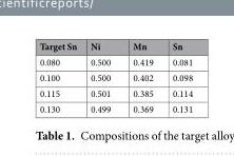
<table><thead><tr><td>Target Sn</td><td>Ni</td><td>Mn</td><td>Sn</td></tr></thead><tbody><tr><td>0.080</td><td>0.500</td><td>0.419</td><td>0.081</td></tr><tr><td>0.100</td><td>0.500</td><td>0.402</td><td>0.098</td></tr><tr><td>0.115</td><td>0.501</td><td>0.385</td><td>0.114</td></tr><tr><td>0.130</td><td>0.499</td><td>0.369</td><td>0.131</td></tr></tbody></table>